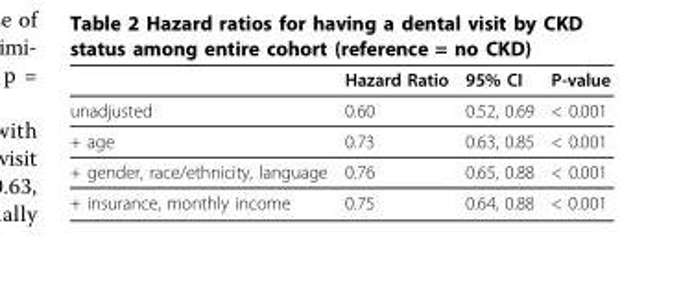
<table><thead><tr><td></td><td>Hazard Ratio</td><td>95% CI</td><td>P-value</td></tr></thead><tbody><tr><td>unadjusted</td><td>0.60</td><td>0.52, 0.69</td><td>&lt; 0.001</td></tr><tr><td>+ age</td><td>0.73</td><td>0.63, 0.85</td><td>&lt; 0.001</td></tr><tr><td>+ gender, race/ethnicity, language</td><td>0.76</td><td>0.65, 0.88</td><td>&lt; 0.001</td></tr><tr><td>+ insurance, monthly income</td><td>0.75</td><td>0.64, 0.88</td><td>&lt; 0.001</td></tr></tbody></table>